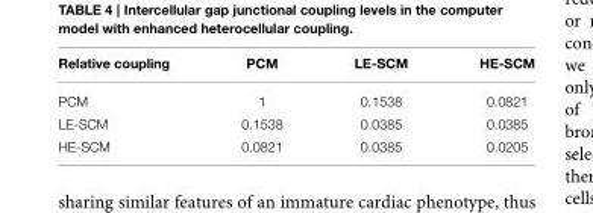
<table><thead><tr><td>Relative coupling</td><td>PCM</td><td>LE-SCM</td><td>HE-SCM</td></tr></thead><tbody><tr><td>PCM</td><td>1</td><td>0.1538</td><td>0.0821</td></tr><tr><td>LE-SCM</td><td>0.1538</td><td>0.0385</td><td>0.0385</td></tr><tr><td>HE-SCM</td><td>0.0821</td><td>0.0385</td><td>0.0205</td></tr></tbody></table>